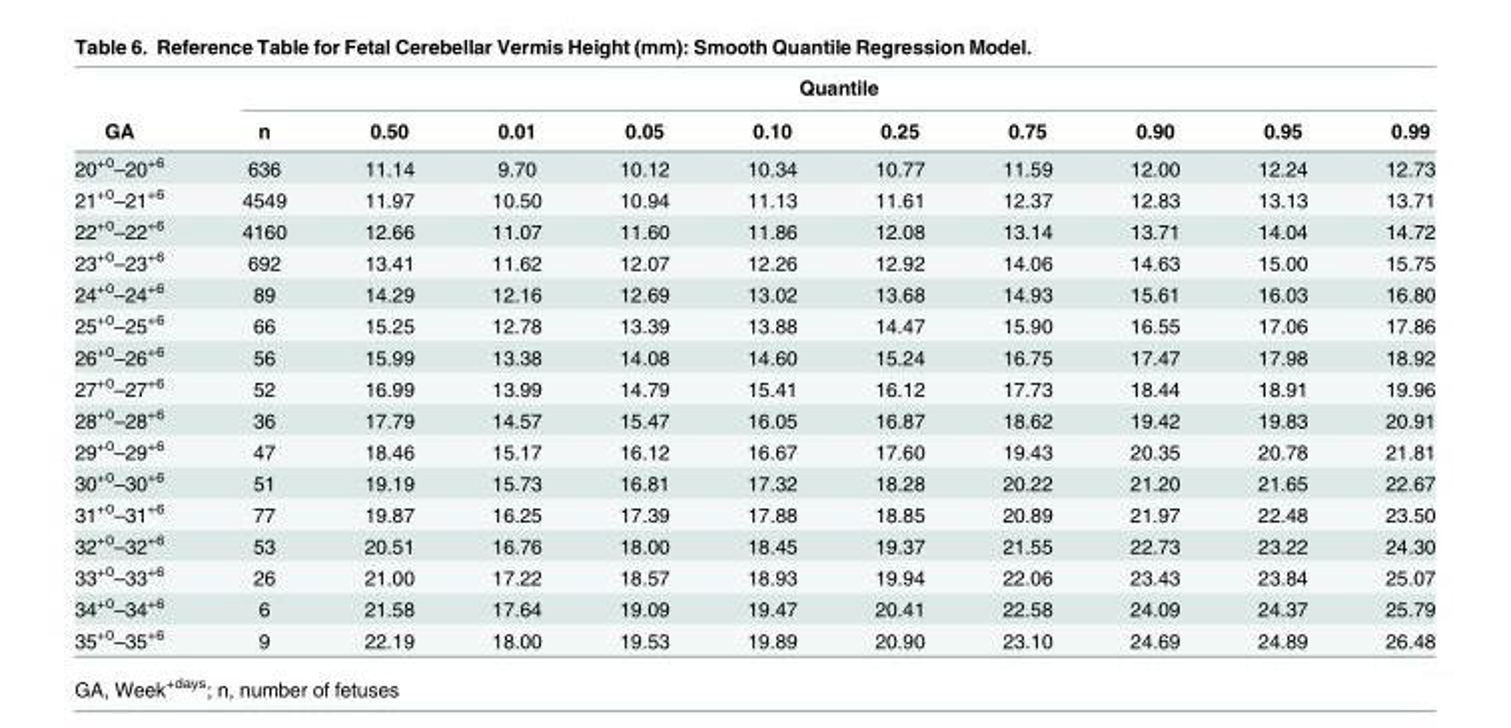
<table><thead><tr><td rowspan="2">GA</td><td colspan="10">Quantile</td></tr><tr><td>n</td><td>0.50</td><td>0.01</td><td>0.05</td><td>0.10</td><td>0.25</td><td>0.75</td><td>0.90</td><td>0.95</td><td>0.99</td></tr></thead><tbody><tr><td>20<sup>+0</sup>–20<sup>+6</sup></td><td>636</td><td>11.14</td><td>9.70</td><td>10.12</td><td>10.34</td><td>10.77</td><td>11.59</td><td>12.00</td><td>12.24</td><td>12.73</td></tr><tr><td>21<sup>+0</sup>–21<sup>+6</sup></td><td>4549</td><td>11.97</td><td>10.50</td><td>10.94</td><td>11.13</td><td>11.61</td><td>12.37</td><td>12.83</td><td>13.13</td><td>13.71</td></tr><tr><td>22<sup>+0</sup>–22<sup>+6</sup></td><td>4160</td><td>12.66</td><td>11.07</td><td>11.60</td><td>11.86</td><td>12.08</td><td>13.14</td><td>13.71</td><td>14.04</td><td>14.72</td></tr><tr><td>23<sup>+0</sup>–23<sup>+6</sup></td><td>692</td><td>13.41</td><td>11.62</td><td>12.07</td><td>12.26</td><td>12.92</td><td>14.06</td><td>14.63</td><td>15.00</td><td>15.75</td></tr><tr><td>24<sup>+0</sup>–24<sup>+6</sup></td><td>89</td><td>14.29</td><td>12.16</td><td>12.69</td><td>13.02</td><td>13.68</td><td>14.93</td><td>15.61</td><td>16.03</td><td>16.80</td></tr><tr><td>25<sup>+0</sup>–25<sup>+6</sup></td><td>66</td><td>15.25</td><td>12.78</td><td>13.39</td><td>13.88</td><td>14.47</td><td>15.90</td><td>16.55</td><td>17.06</td><td>17.86</td></tr><tr><td>26<sup>+0</sup>–26<sup>+6</sup></td><td>56</td><td>15.99</td><td>13.38</td><td>14.08</td><td>14.60</td><td>15.24</td><td>16.75</td><td>17.47</td><td>17.98</td><td>18.92</td></tr><tr><td>27<sup>+0</sup>–27<sup>+6</sup></td><td>52</td><td>16.99</td><td>13.99</td><td>14.79</td><td>15.41</td><td>16.12</td><td>17.73</td><td>18.44</td><td>18.91</td><td>19.96</td></tr><tr><td>28<sup>+0</sup>–28<sup>+6</sup></td><td>36</td><td>17.79</td><td>14.57</td><td>15.47</td><td>16.05</td><td>16.87</td><td>18.62</td><td>19.42</td><td>19.83</td><td>20.91</td></tr><tr><td>29<sup>+0</sup>–29<sup>+6</sup></td><td>47</td><td>18.46</td><td>15.17</td><td>16.12</td><td>16.67</td><td>17.60</td><td>19.43</td><td>20.35</td><td>20.78</td><td>21.81</td></tr><tr><td>30<sup>+0</sup>–30<sup>+6</sup></td><td>51</td><td>19.19</td><td>15.73</td><td>16.81</td><td>17.32</td><td>18.28</td><td>20.22</td><td>21.20</td><td>21.65</td><td>22.67</td></tr><tr><td>31<sup>+0</sup>–31<sup>+6</sup></td><td>77</td><td>19.87</td><td>16.25</td><td>17.39</td><td>17.88</td><td>18.85</td><td>20.89</td><td>21.97</td><td>22.48</td><td>23.50</td></tr><tr><td>32<sup>+0</sup>–32<sup>+6</sup></td><td>53</td><td>20.51</td><td>16.76</td><td>18.00</td><td>18.45</td><td>19.37</td><td>21.55</td><td>22.73</td><td>23.22</td><td>24.30</td></tr><tr><td>33<sup>+0</sup>–33<sup>+6</sup></td><td>26</td><td>21.00</td><td>17.22</td><td>18.57</td><td>18.93</td><td>19.94</td><td>22.06</td><td>23.43</td><td>23.84</td><td>25.07</td></tr><tr><td>34<sup>+0</sup>–34<sup>+6</sup></td><td>6</td><td>21.58</td><td>17.64</td><td>19.09</td><td>19.47</td><td>20.41</td><td>22.58</td><td>24.09</td><td>24.37</td><td>25.79</td></tr><tr><td>35<sup>+0</sup>–35<sup>+6</sup></td><td>9</td><td>22.19</td><td>18.00</td><td>19.53</td><td>19.89</td><td>20.90</td><td>23.10</td><td>24.69</td><td>24.89</td><td>26.48</td></tr></tbody></table>